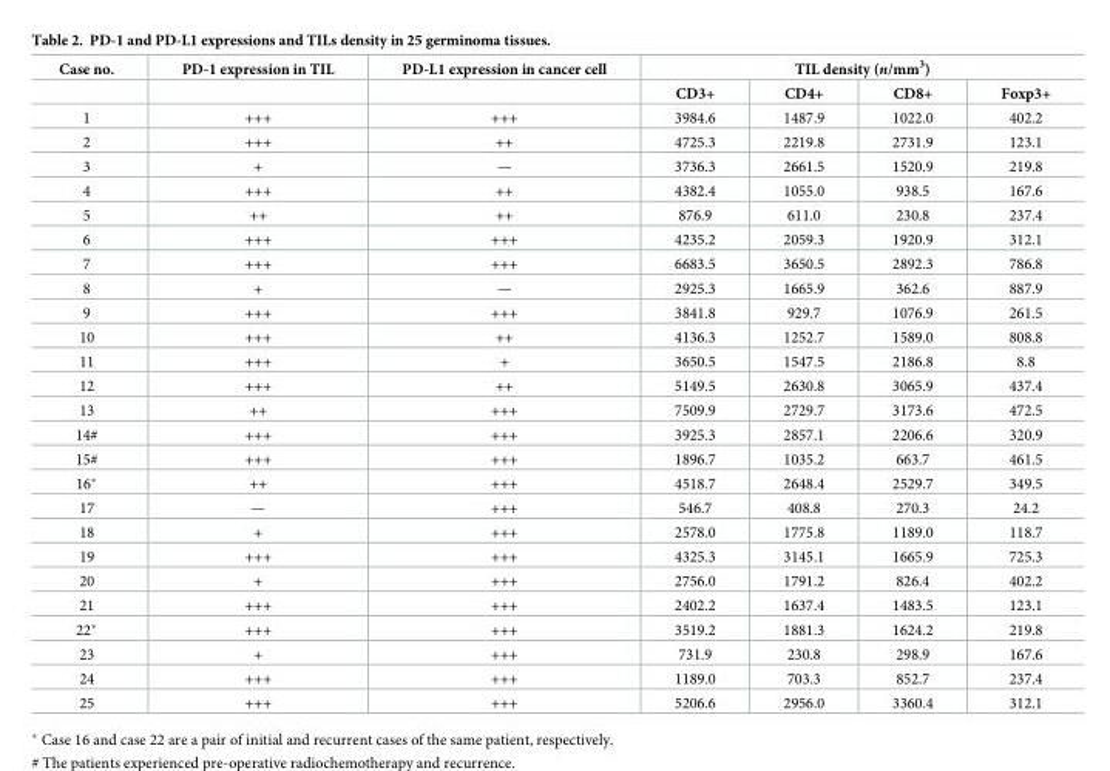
<table><thead><tr><td rowspan="2">Case no.</td><td rowspan="2">PD-1 expression in TIL</td><td rowspan="2">PD-L1 expression in cancer cell</td><td colspan="4">TIL density (n/mm<sup>3</sup>)</td></tr><tr><td>CD3+</td><td>CD4+</td><td>CD8+</td><td>Foxp3+</td></tr></thead><tbody><tr><td>1</td><td>+++</td><td>+++</td><td>3984.6</td><td>1487.9</td><td>1022.0</td><td>402.2</td></tr><tr><td>2</td><td>+++</td><td>++</td><td>4725.3</td><td>2219.8</td><td>2731.9</td><td>123.1</td></tr><tr><td>3</td><td>+</td><td>—</td><td>3736.3</td><td>2661.5</td><td>1520.9</td><td>219.8</td></tr><tr><td>4</td><td>+++</td><td>++</td><td>4382.4</td><td>1055.0</td><td>938.5</td><td>167.6</td></tr><tr><td>5</td><td>++</td><td>++</td><td>876.9</td><td>611.0</td><td>230.8</td><td>237.4</td></tr><tr><td>6</td><td>+++</td><td>+++</td><td>4235.2</td><td>2059.3</td><td>1920.9</td><td>312.1</td></tr><tr><td>7</td><td>+++</td><td>+++</td><td>6683.5</td><td>3650.5</td><td>2892.3</td><td>786.8</td></tr><tr><td>8</td><td>+</td><td>—</td><td>2925.3</td><td>1665.9</td><td>362.6</td><td>887.9</td></tr><tr><td>9</td><td>+++</td><td>+++</td><td>3841.8</td><td>929.7</td><td>1076.9</td><td>261.5</td></tr><tr><td>10</td><td>+++</td><td>++</td><td>4136.3</td><td>1252.7</td><td>1589.0</td><td>808.8</td></tr><tr><td>11</td><td>+++</td><td>+</td><td>3650.5</td><td>1547.5</td><td>2186.8</td><td>8.8</td></tr><tr><td>12</td><td>+++</td><td>++</td><td>5149.5</td><td>2630.8</td><td>3065.9</td><td>437.4</td></tr><tr><td>13</td><td>++</td><td>+++</td><td>7509.9</td><td>2729.7</td><td>3173.6</td><td>472.5</td></tr><tr><td>14#</td><td>+++</td><td>+++</td><td>3925.3</td><td>2857.1</td><td>2206.6</td><td>320.9</td></tr><tr><td>15#</td><td>+++</td><td>+++</td><td>1896.7</td><td>1035.2</td><td>663.7</td><td>461.5</td></tr><tr><td>16*</td><td>++</td><td>+++</td><td>4518.7</td><td>2648.4</td><td>2529.7</td><td>349.5</td></tr><tr><td>17</td><td>—</td><td>+++</td><td>546.7</td><td>408.8</td><td>270.3</td><td>24.2</td></tr><tr><td>18</td><td>+</td><td>+++</td><td>2578.0</td><td>1775.8</td><td>1189.0</td><td>118.7</td></tr><tr><td>19</td><td>+++</td><td>+++</td><td>4325.3</td><td>3145.1</td><td>1665.9</td><td>725.3</td></tr><tr><td>20</td><td>+</td><td>+++</td><td>2756.0</td><td>1791.2</td><td>826.4</td><td>402.2</td></tr><tr><td>21</td><td>+++</td><td>+++</td><td>2402.2</td><td>1637.4</td><td>1483.5</td><td>123.1</td></tr><tr><td>22*</td><td>+++</td><td>+++</td><td>3519.2</td><td>1881.3</td><td>1624.2</td><td>219.8</td></tr><tr><td>23</td><td>+</td><td>+++</td><td>731.9</td><td>230.8</td><td>298.9</td><td>167.6</td></tr><tr><td>24</td><td>+++</td><td>+++</td><td>1189.0</td><td>703.3</td><td>852.7</td><td>237.4</td></tr><tr><td>25</td><td>+++</td><td>+++</td><td>5206.6</td><td>2956.0</td><td>3360.4</td><td>312.1</td></tr></tbody></table>